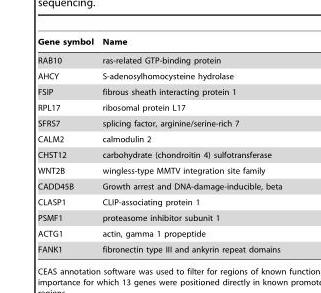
<table><thead><tr><td>Gene symbol</td><td>Name</td></tr></thead><tbody><tr><td>RAB10</td><td>ras-related GTP-binding protein</td></tr><tr><td>AHCY</td><td>S-adenosylhomocysteine hydrolase</td></tr><tr><td>FSIP</td><td>fibrous sheath interacting protein 1</td></tr><tr><td>RPL17</td><td>ribosomal protein L17</td></tr><tr><td>SFRS7</td><td>splicing factor, arginine/serine-rich 7</td></tr><tr><td>CALM2</td><td>calmodulin 2</td></tr><tr><td>CHST12</td><td>carbohydrate (chondroitin 4) sulfotransferase</td></tr><tr><td>WNT2B</td><td>wingless-type MMTV integration site family</td></tr><tr><td>CADD45B</td><td>Growth arrest and DNA-damage-inducible, beta</td></tr><tr><td>CLASP1</td><td>CLIP-associating protein 1</td></tr><tr><td>PSMF1</td><td>proteasome inhibitor subunit 1</td></tr><tr><td>ACTG1</td><td>actin, gamma 1 propeptide</td></tr><tr><td>FANK1</td><td>fibronectin type III and ankyrin repeat domains</td></tr></tbody></table>